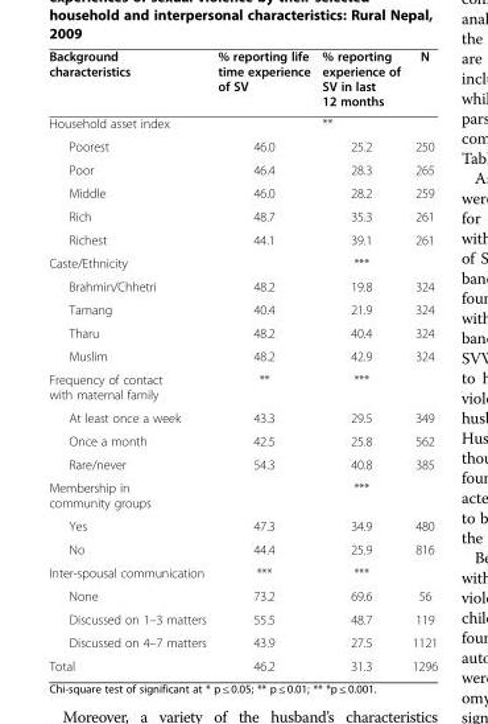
<table><thead><tr><td>Background characteristics</td><td>% reporting life time experience of SV</td><td>% reporting experience of SV in last 12 months</td><td>N</td></tr></thead><tbody><tr><td>Household asset index</td><td></td><td>**</td><td></td></tr><tr><td>Poorest</td><td>46.0</td><td>25.2</td><td>250</td></tr><tr><td>Poor</td><td>46.4</td><td>28.3</td><td>265</td></tr><tr><td>Middle</td><td>46.0</td><td>28.2</td><td>259</td></tr><tr><td>Rich</td><td>48.7</td><td>35.3</td><td>261</td></tr><tr><td>Richest</td><td>44.1</td><td>39.1</td><td>261</td></tr><tr><td>Caste/Ethnicity</td><td></td><td>***</td><td></td></tr><tr><td>Brahmin/Chhetri</td><td>48.2</td><td>19.8</td><td>324</td></tr><tr><td>Tamang</td><td>40.4</td><td>21.9</td><td>324</td></tr><tr><td>Tharu</td><td>48.2</td><td>40.4</td><td>324</td></tr><tr><td>Muslim</td><td>48.2</td><td>42.9</td><td>324</td></tr><tr><td>Frequency of contact with maternal family</td><td>**</td><td>***</td><td></td></tr><tr><td>At least once a week</td><td>43.3</td><td>29.5</td><td>349</td></tr><tr><td>Once a month</td><td>42.5</td><td>25.8</td><td>562</td></tr><tr><td>Rare/never</td><td>54.3</td><td>40.8</td><td>385</td></tr><tr><td>Membership in community groups</td><td></td><td>***</td><td></td></tr><tr><td>Yes</td><td>47.3</td><td>34.9</td><td>480</td></tr><tr><td>No</td><td>44.4</td><td>25.9</td><td>816</td></tr><tr><td>Inter-spousal communication</td><td>***</td><td>***</td><td></td></tr><tr><td>None</td><td>73.2</td><td>69.6</td><td>56</td></tr><tr><td>Discussed on 1–3 matters</td><td>55.5</td><td>48.7</td><td>119</td></tr><tr><td>Discussed on 4–7 matters</td><td>43.9</td><td>27.5</td><td>1121</td></tr><tr><td>Total</td><td>46.2</td><td>31.3</td><td>1296</td></tr></tbody></table>